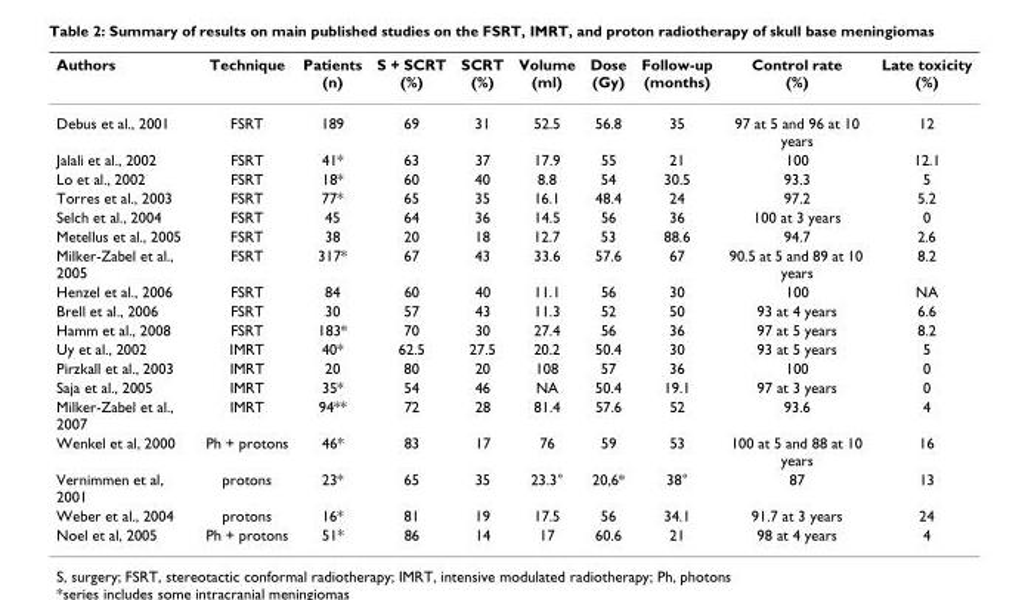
<table><thead><tr><td>Authors</td><td>Technique</td><td>Patients (n)</td><td>S + SCRT (%)</td><td>SCRT (%)</td><td>Volume (ml)</td><td>Dose (Gy)</td><td>Follow-up (months)</td><td>Control rate (%)</td><td>Late toxicity (%)</td></tr></thead><tbody><tr><td>Debus et al., 2001</td><td>FSRT</td><td>189</td><td>69</td><td>31</td><td>52.5</td><td>56.8</td><td>35</td><td>97 at 5 and 96 at 10 years</td><td>12</td></tr><tr><td>Jalali et al., 2002</td><td>FSRT</td><td>41*</td><td>63</td><td>37</td><td>17.9</td><td>55</td><td>21</td><td>100</td><td>12.1</td></tr><tr><td>Lo et al., 2002</td><td>FSRT</td><td>18*</td><td>60</td><td>40</td><td>8.8</td><td>54</td><td>30.5</td><td>93.3</td><td>5</td></tr><tr><td>Torres et al., 2003</td><td>FSRT</td><td>77*</td><td>65</td><td>35</td><td>16.1</td><td>48.4</td><td>24</td><td>97.2</td><td>5.2</td></tr><tr><td>Selch et al., 2004</td><td>FSRT</td><td>45</td><td>64</td><td>36</td><td>14.5</td><td>56</td><td>36</td><td>100 at 3 years</td><td>0</td></tr><tr><td>Metellus et al., 2005</td><td>FSRT</td><td>38</td><td>20</td><td>18</td><td>12.7</td><td>53</td><td>88.6</td><td>94.7</td><td>2.6</td></tr><tr><td>Milker-Zabel et al., 2005</td><td>FSRT</td><td>317*</td><td>67</td><td>43</td><td>33.6</td><td>57.6</td><td>67</td><td>90.5 at 5 and 89 at 10 years</td><td>8.2</td></tr><tr><td>Henzel et al., 2006</td><td>FSRT</td><td>84</td><td>60</td><td>40</td><td>11.1</td><td>56</td><td>30</td><td>100</td><td>NA</td></tr><tr><td>Brell et al., 2006</td><td>FSRT</td><td>30</td><td>57</td><td>43</td><td>11.3</td><td>52</td><td>50</td><td>93 at 4 years</td><td>6.6</td></tr><tr><td>Hamm et al., 2008</td><td>FSRT</td><td>183*</td><td>70</td><td>30</td><td>27.4</td><td>56</td><td>36</td><td>97 at 5 years</td><td>8.2</td></tr><tr><td>Uy et al., 2002</td><td>IMRT</td><td>40*</td><td>62.5</td><td>27.5</td><td>20.2</td><td>50.4</td><td>30</td><td>93 at 5 years</td><td>5</td></tr><tr><td>Pirzkall et al., 2003</td><td>IMRT</td><td>20</td><td>80</td><td>20</td><td>108</td><td>57</td><td>36</td><td>100</td><td>0</td></tr><tr><td>Saja et al., 2005</td><td>IMRT</td><td>35*</td><td>54</td><td>46</td><td>NA</td><td>50.4</td><td>19.1</td><td>97 at 3 years</td><td>0</td></tr><tr><td>Milker-Zabel et al., 2007</td><td>IMRT</td><td>94**</td><td>72</td><td>28</td><td>81.4</td><td>57.6</td><td>52</td><td>93.6</td><td>4</td></tr><tr><td>Wenkel et al, 2000</td><td>Ph + protons</td><td>46*</td><td>83</td><td>17</td><td>76</td><td>59</td><td>53</td><td>100 at 5 and 88 at 10 years</td><td>16</td></tr><tr><td>Vernimmen et al, 2001</td><td>protons</td><td>23*</td><td>65</td><td>35</td><td>23.3°</td><td>20,6*</td><td>38°</td><td>87</td><td>13</td></tr><tr><td>Weber et al., 2004</td><td>protons</td><td>16*</td><td>81</td><td>19</td><td>17.5</td><td>56</td><td>34.1</td><td>91.7 at 3 years</td><td>24</td></tr><tr><td>Noel et al, 2005</td><td>Ph + protons</td><td>51*</td><td>86</td><td>14</td><td>17</td><td>60.6</td><td>21</td><td>98 at 4 years</td><td>4</td></tr></tbody></table>